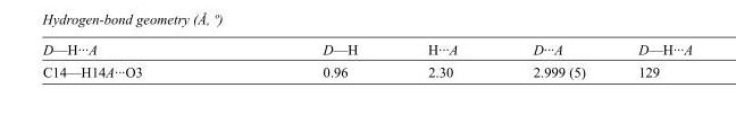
<table><tbody><tr><td>D—H···A</td><td>D—H</td><td>H···A</td><td>D···A</td><td>D—H···A</td></tr><tr><td>C14—H14A···O3</td><td>0.96</td><td>2.30</td><td>2.999 (5)</td><td>129</td></tr></tbody></table>